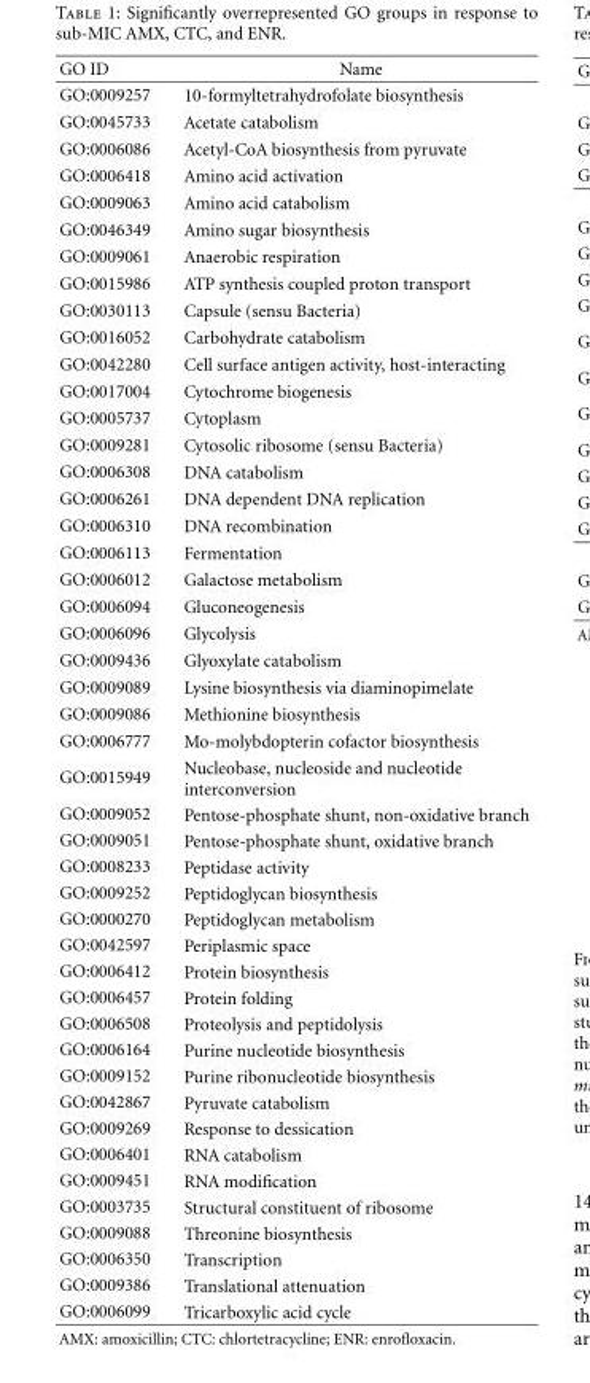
<table><thead><tr><td>GO ID</td><td>Name</td></tr></thead><tbody><tr><td>GO:0009257</td><td>10-formyltetrahydrofolate biosynthesis</td></tr><tr><td>GO:0045733</td><td>Acetate catabolism</td></tr><tr><td>GO:0006086</td><td>Acetyl-CoA biosynthesis from pyruvate</td></tr><tr><td>GO:0006418</td><td>Amino acid activation</td></tr><tr><td>GO:0009063</td><td>Amino acid catabolism</td></tr><tr><td>GO:0046349</td><td>Amino sugar biosynthesis</td></tr><tr><td>GO:0009061</td><td>Anaerobic respiration</td></tr><tr><td>GO:0015986</td><td>ATP synthesis coupled proton transport</td></tr><tr><td>GO:0030113</td><td>Capsule (sensu Bacteria)</td></tr><tr><td>GO:0016052</td><td>Carbohydrate catabolism</td></tr><tr><td>GO:0042280</td><td>Cell surface antigen activity, host-interacting</td></tr><tr><td>GO:0017004</td><td>Cytochrome biogenesis</td></tr><tr><td>GO:0005737</td><td>Cytoplasm</td></tr><tr><td>GO:0009281</td><td>Cytosolic ribosome (sensu Bacteria)</td></tr><tr><td>GO:0006308</td><td>DNA catabolism</td></tr><tr><td>GO:0006261</td><td>DNA dependent DNA replication</td></tr><tr><td>GO:0006310</td><td>DNA recombination</td></tr><tr><td>GO:0006113</td><td>Fermentation</td></tr><tr><td>GO:0006012</td><td>Galactose metabolism</td></tr><tr><td>GO:0006094</td><td>Gluconeogenesis</td></tr><tr><td>GO:0006096</td><td>Glycolysis</td></tr><tr><td>GO:0009436</td><td>Glyoxylate catabolism</td></tr><tr><td>GO:0009089</td><td>Lysine biosynthesis via diaminopimelate</td></tr><tr><td>GO:0009086</td><td>Methionine biosynthesis</td></tr><tr><td>GO:0006777</td><td>Mo-molybdopterin cofactor biosynthesis</td></tr><tr><td>GO:0015949</td><td>Nucleobase, nucleoside and nucleotide interconversion</td></tr><tr><td>GO:0009052</td><td>Pentose-phosphate shunt, non-oxidative branch</td></tr><tr><td>GO:0009051</td><td>Pentose-phosphate shunt, oxidative branch</td></tr><tr><td>GO:0008233</td><td>Peptidase activity</td></tr><tr><td>GO:0009252</td><td>Peptidoglycan biosynthesis</td></tr><tr><td>GO:0000270</td><td>Peptidoglycan metabolism</td></tr><tr><td>GO:0042597</td><td>Periplasmic space</td></tr><tr><td>GO:0006412</td><td>Protein biosynthesis</td></tr><tr><td>GO:0006457</td><td>Protein folding</td></tr><tr><td>GO:0006508</td><td>Proteolysis and peptidolysis</td></tr><tr><td>GO:0006164</td><td>Purine nucleotide biosynthesis</td></tr><tr><td>GO:0009152</td><td>Purine ribonucleotide biosynthesis</td></tr><tr><td>GO:0042867</td><td>Pyruvate catabolism</td></tr><tr><td>GO:0009269</td><td>Response to dessication</td></tr><tr><td>GO:0006401</td><td>RNA catabolism</td></tr><tr><td>GO:0009451</td><td>RNA modification</td></tr><tr><td>GO:0003735</td><td>Structural constituent of ribosome</td></tr><tr><td>GO:0009088</td><td>Threonine biosynthesis</td></tr><tr><td>GO:0006350</td><td>Transcription</td></tr><tr><td>GO:0009386</td><td>Translational attenuation</td></tr><tr><td>GO:0006099</td><td>Tricarboxylic acid cycle</td></tr></tbody></table>